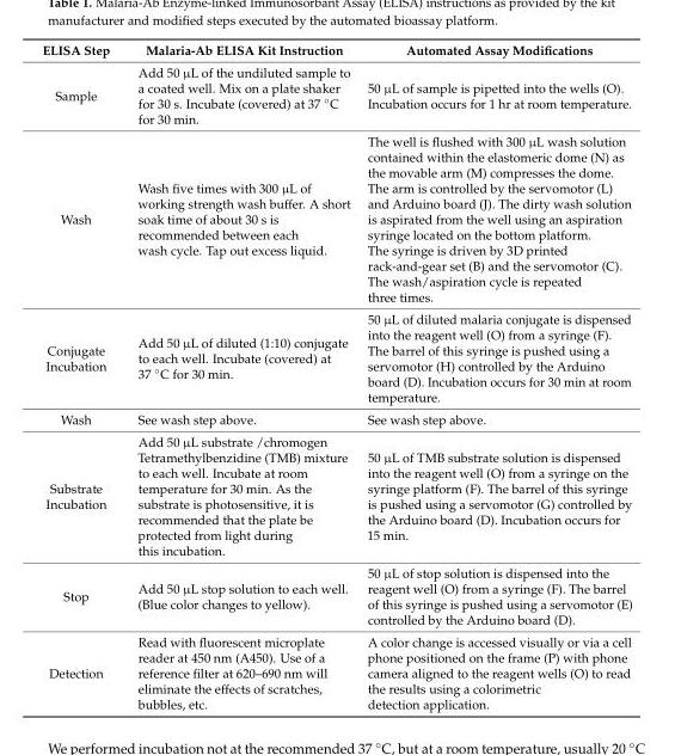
<table><thead><tr><td>ELISA Step</td><td>Malaria-Ab ELISA Kit Instruction</td><td>Automated Assay Modifications</td></tr></thead><tbody><tr><td>Sample</td><td>Add 50 µL of the undiluted sample to a coated well. Mix on a plate shaker for 30 s. Incubate (covered) at 37 ◦C for 30 min.</td><td>50 µL of sample is pipetted into the wells (O). Incubation occurs for 1 hr at room temperature.</td></tr><tr><td>Wash</td><td>Wash five times with 300 µL of working strength wash buffer. A short soak time of about 30 s is recommended between each wash cycle. Tap out excess liquid.</td><td>The well is flushed with 300 µL wash solution contained within the elastomeric dome (N) as the movable arm (M) compresses the dome. The arm is controlled by the servomotor (L) and Arduino board (J). The dirty wash solution is aspirated from the well using an aspiration syringe located on the bottom platform. The syringe is driven by 3D printed rack-and-gear set (B) and the servomotor (C). The wash/aspiration cycle is repeated three times.</td></tr><tr><td>Conjugate Incubation</td><td>Add 50 µL of diluted (1:10) conjugate to each well. Incubate (covered) at 37 ◦C for 30 min.</td><td>50 µL of diluted malaria conjugate is dispensed into the reagent well (O) from a syringe (F). The barrel of this syringe is pushed using a servomotor (H) controlled by the Arduino board (D). Incubation occurs for 30 min at room temperature.</td></tr><tr><td>Wash</td><td>See wash step above.</td><td>See wash step above.</td></tr><tr><td>Substrate Incubation</td><td>Add 50 µL substrate /chromogen Tetramethylbenzidine (TMB) mixture to each well. Incubate at room temperature for 30 min. As the substrate is photosensitive, it is recommended that the plate be protected from light during this incubation.</td><td>50 µL of TMB substrate solution is dispensed into the reagent well (O) from a syringe on the syringe platform (F). The barrel of this syringe is pushed using a servomotor (G) controlled by the Arduino board (D). Incubation occurs for 15 min.</td></tr><tr><td>Stop</td><td>Add 50 µL stop solution to each well. (Blue color changes to yellow).</td><td>50 µL of stop solution is dispensed into the reagent well (O) from a syringe (F). The barrel of this syringe is pushed using a servomotor (E) controlled by the Arduino board (D).</td></tr><tr><td>Detection</td><td>Read with fluorescent microplate reader at 450 nm (A450). Use of a reference filter at 620–690 nm will eliminate the effects of scratches, bubbles, etc.</td><td>A color change is accessed visually or via a cell phone positioned on the frame (P) with phone camera aligned to the reagent wells (O) to read the results using a colorimetric detection application.</td></tr></tbody></table>